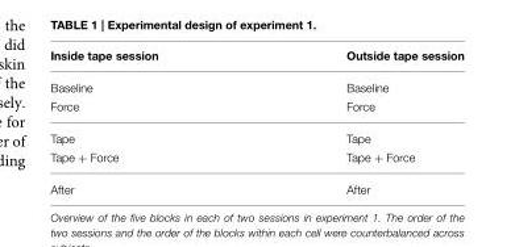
<table><thead><tr><td>Inside tape session</td><td>Outside tape session</td></tr></thead><tbody><tr><td>Baseline</td><td>Baseline</td></tr><tr><td>Force</td><td>Force</td></tr><tr><td>Tape</td><td>Tape</td></tr><tr><td>Tape + Force</td><td>Tape + Force</td></tr><tr><td>After</td><td>After</td></tr></tbody></table>